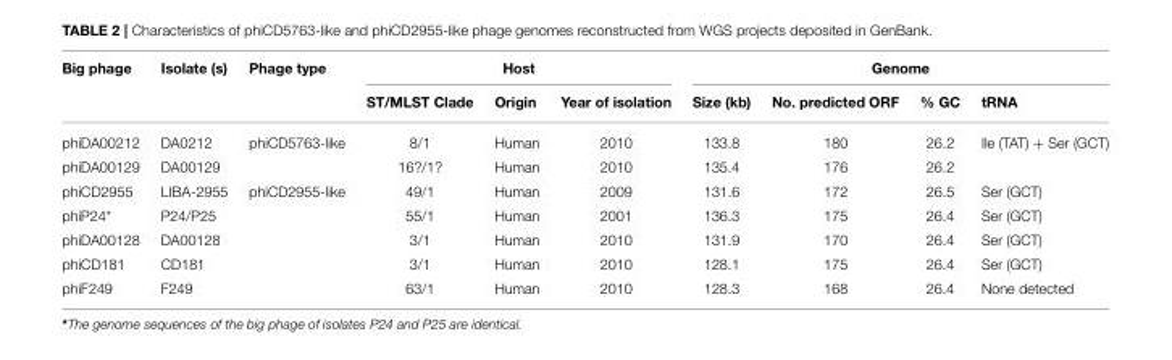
<table><thead><tr><td rowspan="2">Big phage</td><td rowspan="2">Isolate (s)</td><td rowspan="2">Phage type</td><td colspan="3">Host</td><td colspan="4">Genome</td></tr><tr><td>ST/MLST Clade</td><td>Origin</td><td>Year of isolation</td><td>Size (kb)</td><td>No. predicted ORF</td><td>% GC</td><td>tRNA</td></tr></thead><tbody><tr><td>phiDA00212</td><td>DA0212</td><td>phiCD5763-like</td><td>8/1</td><td>Human</td><td>2010</td><td>133.8</td><td>180</td><td>26.2</td><td>Ile (TAT) + Ser (GCT)</td></tr><tr><td>phiDA00129</td><td>DA00129</td><td></td><td>16?/1?</td><td>Human</td><td>2010</td><td>135.4</td><td>176</td><td>26.2</td><td></td></tr><tr><td>phiCD2955</td><td>LIBA-2955</td><td>phiCD2955-like</td><td>49/1</td><td>Human</td><td>2009</td><td>131.6</td><td>172</td><td>26.5</td><td>Ser (GCT)</td></tr><tr><td>phiP24*</td><td>P24/P25</td><td></td><td>55/1</td><td>Human</td><td>2001</td><td>136.3</td><td>175</td><td>26.4</td><td>Ser (GCT)</td></tr><tr><td>phiDA00128</td><td>DA00128</td><td></td><td>3/1</td><td>Human</td><td>2010</td><td>131.9</td><td>170</td><td>26.4</td><td>Ser (GCT)</td></tr><tr><td>phiCD181</td><td>CD181</td><td></td><td>3/1</td><td>Human</td><td>2010</td><td>128.1</td><td>175</td><td>26.4</td><td>Ser (GCT)</td></tr><tr><td>phiF249</td><td>F249</td><td></td><td>63/1</td><td>Human</td><td>2010</td><td>128.3</td><td>168</td><td>26.4</td><td>None detected</td></tr></tbody></table>